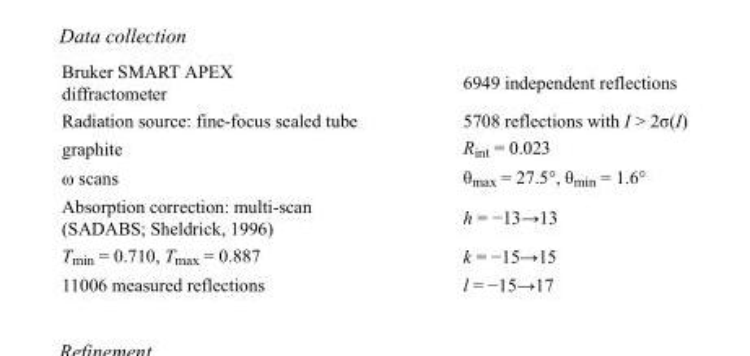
<table><tbody><tr><td>Bruker SMART APEX diffractometer</td><td>6949 independent reflections</td></tr><tr><td>Radiation source: fine-focus sealed tube</td><td>5708 reflections with I &gt; 2σ(I)</td></tr><tr><td>graphite</td><td>R<sub>int</sub> = 0.023</td></tr><tr><td>ω scans</td><td>θ<sub>max</sub> = 27.5°, θ<sub>min</sub> = 1.6°</td></tr><tr><td>Absorption correction: multi-scan (SADABS; Sheldrick, 1996)</td><td>h = −13→13</td></tr><tr><td>T<sub>min</sub> = 0.710, T<sub>max</sub> = 0.887</td><td>k = −15→15</td></tr><tr><td>11006 measured reflections</td><td>l = −15→17</td></tr></tbody></table>